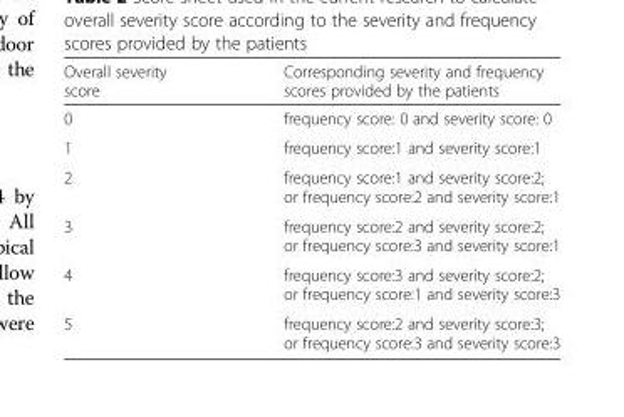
<table><thead><tr><td>Overall severity score</td><td>Corresponding severity and frequency scores provided by the patients</td></tr></thead><tbody><tr><td>0</td><td>frequency score: 0 and severity score: 0</td></tr><tr><td>1</td><td>frequency score:1 and severity score:1</td></tr><tr><td>2</td><td>frequency score:1 and severity score:2; or frequency score:2 and severity score:1</td></tr><tr><td>3</td><td>frequency score:2 and severity score:2; or frequency score:3 and severity score:1</td></tr><tr><td>4</td><td>frequency score:3 and severity score:2; or frequency score:1 and severity score:3</td></tr><tr><td>5</td><td>frequency score:2 and severity score:3; or frequency score:3 and severity score:3</td></tr></tbody></table>